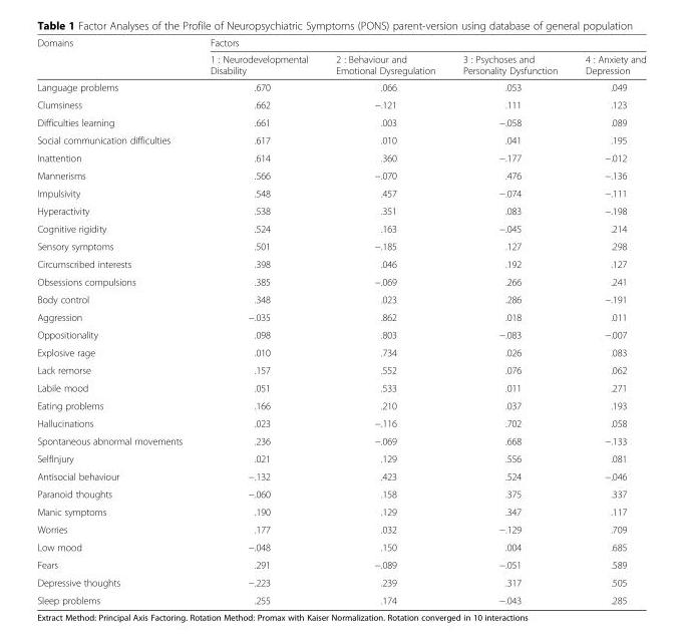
<table><thead><tr><td rowspan="2">Domains</td><td colspan="4">Factors</td></tr><tr><td>1 : Neurodevelopmental Disability</td><td>2 : Behaviour and Emotional Dysregulation</td><td>3 : Psychoses and Personality Dysfunction</td><td>4 : Anxiety and Depression</td></tr></thead><tbody><tr><td>Language problems</td><td>.670</td><td>.066</td><td>.053</td><td>.049</td></tr><tr><td>Clumsiness</td><td>.662</td><td>−.121</td><td>.111</td><td>.123</td></tr><tr><td>Difficulties learning</td><td>.661</td><td>.003</td><td>−.058</td><td>.089</td></tr><tr><td>Social communication difficulties</td><td>.617</td><td>.010</td><td>.041</td><td>.195</td></tr><tr><td>Inattention</td><td>.614</td><td>.360</td><td>−.177</td><td>−.012</td></tr><tr><td>Mannerisms</td><td>.566</td><td>−.070</td><td>.476</td><td>−.136</td></tr><tr><td>Impulsivity</td><td>.548</td><td>.457</td><td>−.074</td><td>−.111</td></tr><tr><td>Hyperactivity</td><td>.538</td><td>.351</td><td>.083</td><td>−.198</td></tr><tr><td>Cognitive rigidity</td><td>.524</td><td>.163</td><td>−.045</td><td>.214</td></tr><tr><td>Sensory symptoms</td><td>.501</td><td>−.185</td><td>.127</td><td>.298</td></tr><tr><td>Circumscribed interests</td><td>.398</td><td>.046</td><td>.192</td><td>.127</td></tr><tr><td>Obsessions compulsions</td><td>.385</td><td>−.069</td><td>.266</td><td>.241</td></tr><tr><td>Body control</td><td>.348</td><td>.023</td><td>.286</td><td>−.191</td></tr><tr><td>Aggression</td><td>−.035</td><td>.862</td><td>.018</td><td>.011</td></tr><tr><td>Oppositionality</td><td>.098</td><td>.803</td><td>−.083</td><td>−.007</td></tr><tr><td>Explosive rage</td><td>.010</td><td>.734</td><td>.026</td><td>.083</td></tr><tr><td>Lack remorse</td><td>.157</td><td>.552</td><td>.076</td><td>.062</td></tr><tr><td>Labile mood</td><td>.051</td><td>.533</td><td>.011</td><td>.271</td></tr><tr><td>Eating problems</td><td>.166</td><td>.210</td><td>.037</td><td>.193</td></tr><tr><td>Hallucinations</td><td>.023</td><td>−.116</td><td>.702</td><td>.058</td></tr><tr><td>Spontaneous abnormal movements</td><td>.236</td><td>−.069</td><td>.668</td><td>−.133</td></tr><tr><td>SelfInjury</td><td>.021</td><td>.129</td><td>.556</td><td>.081</td></tr><tr><td>Antisocial behaviour</td><td>−.132</td><td>.423</td><td>.524</td><td>−.046</td></tr><tr><td>Paranoid thoughts</td><td>−.060</td><td>.158</td><td>.375</td><td>.337</td></tr><tr><td>Manic symptoms</td><td>.190</td><td>.129</td><td>.347</td><td>.117</td></tr><tr><td>Worries</td><td>.177</td><td>.032</td><td>−.129</td><td>.709</td></tr><tr><td>Low mood</td><td>−.048</td><td>.150</td><td>.004</td><td>.685</td></tr><tr><td>Fears</td><td>.291</td><td>−.089</td><td>−.051</td><td>.589</td></tr><tr><td>Depressive thoughts</td><td>−.223</td><td>.239</td><td>.317</td><td>.505</td></tr><tr><td>Sleep problems</td><td>.255</td><td>.174</td><td>−.043</td><td>.285</td></tr></tbody></table>